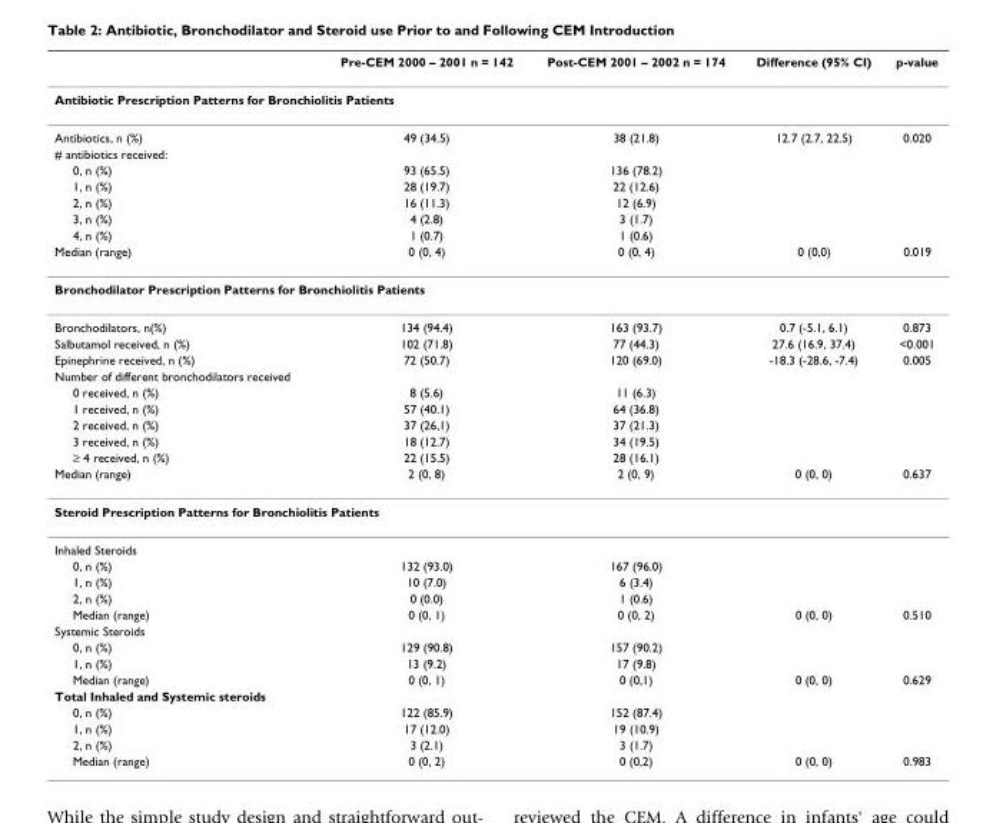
<table><thead><tr><td></td><td>Pre-CEM 2000 – 2001 n = 142</td><td>Post-CEM 2001 – 2002 n = 174</td><td>Difference (95% CI)</td><td>p-value</td></tr></thead><tbody><tr><td colspan="5">Antibiotic Prescription Patterns for Bronchiolitis Patients</td></tr><tr><td>Antibiotics, n (%)</td><td>49 (34.5)</td><td>38 (21.8)</td><td>12.7 (2.7, 22.5)</td><td>0.020</td></tr><tr><td colspan="5"># antibiotics received:</td></tr><tr><td>0, n (%)</td><td>93 (65.5)</td><td>136 (78.2)</td><td></td><td></td></tr><tr><td>1, n (%)</td><td>28 (19.7)</td><td>22 (12.6)</td><td></td><td></td></tr><tr><td>2, n (%)</td><td>16 (11.3)</td><td>12 (6.9)</td><td></td><td></td></tr><tr><td>3, n (%)</td><td>4 (2.8)</td><td>3 (1.7)</td><td></td><td></td></tr><tr><td>4, n (%)</td><td>1 (0.7)</td><td>1 (0.6)</td><td></td><td></td></tr><tr><td>Median (range)</td><td>0 (0, 4)</td><td>0 (0, 4)</td><td>0 (0,0)</td><td>0.019</td></tr><tr><td colspan="5">Bronchodilator Prescription Patterns for Bronchiolitis Patients</td></tr><tr><td>Bronchodilators, n(%)</td><td>134 (94.4)</td><td>163 (93.7)</td><td>0.7 (-5.1, 6.1)</td><td>0.873</td></tr><tr><td>Salbutamol received, n (%)</td><td>102 (71.8)</td><td>77 (44.3)</td><td>27.6 (16.9, 37.4)</td><td>&lt;0.001</td></tr><tr><td>Epinephrine received, n (%)</td><td>72 (50.7)</td><td>120 (69.0)</td><td>-18.3 (-28.6, -7.4)</td><td>0.005</td></tr><tr><td colspan="5">Number of different bronchodilators received</td></tr><tr><td>0 received, n (%)</td><td>8 (5.6)</td><td>11 (6.3)</td><td></td><td></td></tr><tr><td>1 received, n (%)</td><td>57 (40.1)</td><td>64 (36.8)</td><td></td><td></td></tr><tr><td>2 received, n (%)</td><td>37 (26,1)</td><td>37 (21.3)</td><td></td><td></td></tr><tr><td>3 received, n (%)</td><td>18 (12.7)</td><td>34 (19.5)</td><td></td><td></td></tr><tr><td>≥ 4 received, n (%)</td><td>22 (15.5)</td><td>28 (16.1)</td><td></td><td></td></tr><tr><td>Median (range)</td><td>2 (0, 8)</td><td>2 (0, 9)</td><td>0 (0, 0)</td><td>0.637</td></tr><tr><td colspan="5">Steroid Prescription Patterns for Bronchiolitis Patients</td></tr><tr><td colspan="5">Inhaled Steroids</td></tr><tr><td>0, n (%)</td><td>132 (93.0)</td><td>167 (96.0)</td><td></td><td></td></tr><tr><td>1, n (%)</td><td>10 (7.0)</td><td>6 (3.4)</td><td></td><td></td></tr><tr><td>2, n (%)</td><td>0 (0.0)</td><td>1 (0.6)</td><td></td><td></td></tr><tr><td>Median (range)</td><td>0 (0, 1)</td><td>0 (0, 2)</td><td>0 (0, 0)</td><td>0.510</td></tr><tr><td colspan="5">Systemic Steroids</td></tr><tr><td>0, n (%)</td><td>129 (90.8)</td><td>157 (90.2)</td><td></td><td></td></tr><tr><td>1, n (%)</td><td>13 (9.2)</td><td>17 (9.8)</td><td></td><td></td></tr><tr><td>Median (range)</td><td>0 (0, 1)</td><td>0 (0,1)</td><td>0 (0, 0)</td><td>0.629</td></tr><tr><td colspan="5">Total Inhaled and Systemic steroids</td></tr><tr><td>0, n (%)</td><td>122 (85.9)</td><td>152 (87.4)</td><td></td><td></td></tr><tr><td>1, n (%)</td><td>17 (12.0)</td><td>19 (10.9)</td><td></td><td></td></tr><tr><td>2, n (%)</td><td>3 (2.1)</td><td>3 (1.7)</td><td></td><td></td></tr><tr><td>Median (range)</td><td>0 (0, 2)</td><td>0 (0,2)</td><td>0 (0, 0)</td><td>0.983</td></tr></tbody></table>